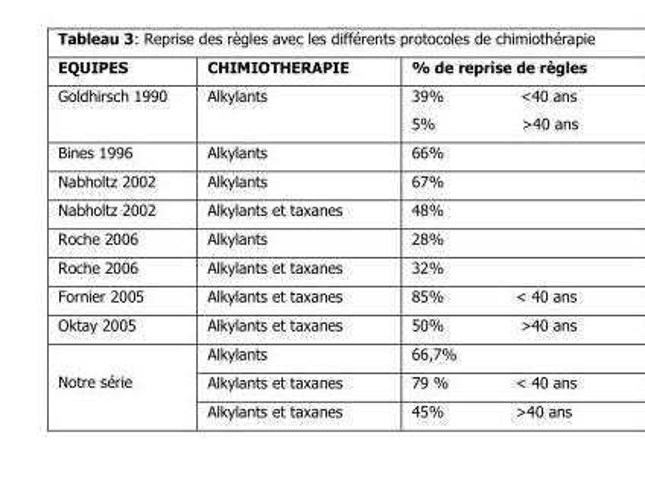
<table><thead><tr><td>EQUIPES</td><td>CHIMIOTHERAPIE</td><td>% de reprise de règles</td></tr></thead><tbody><tr><td>Goldhirsch 1990</td><td>Alkylants</td><td>39% &lt;40 ans 5% &gt;40 ans</td></tr><tr><td>Bines 1996</td><td>Alkylants</td><td>66%</td></tr><tr><td>Nabholtz 2002</td><td>Alkylants</td><td>67%</td></tr><tr><td>Nabholtz 2002</td><td>Alkylants et taxanes</td><td>48%</td></tr><tr><td>Roche 2006</td><td>Alkylants</td><td>28%</td></tr><tr><td>Roche 2006</td><td>Alkylants et taxanes</td><td>32%</td></tr><tr><td>Fornier 2005</td><td>Alkylants et taxanes</td><td>85% &lt; 40 ans</td></tr><tr><td>Oktay 2005</td><td>Alkylants et taxanes</td><td>50% &gt;40 ans</td></tr><tr><td rowspan="3">Notre série</td><td>Alkylants</td><td>66,7%</td></tr><tr><td>Alkylants et taxanes</td><td>79 % &lt; 40 ans</td></tr><tr><td>Alkylants et taxanes</td><td>45% &gt;40 ans</td></tr></tbody></table>